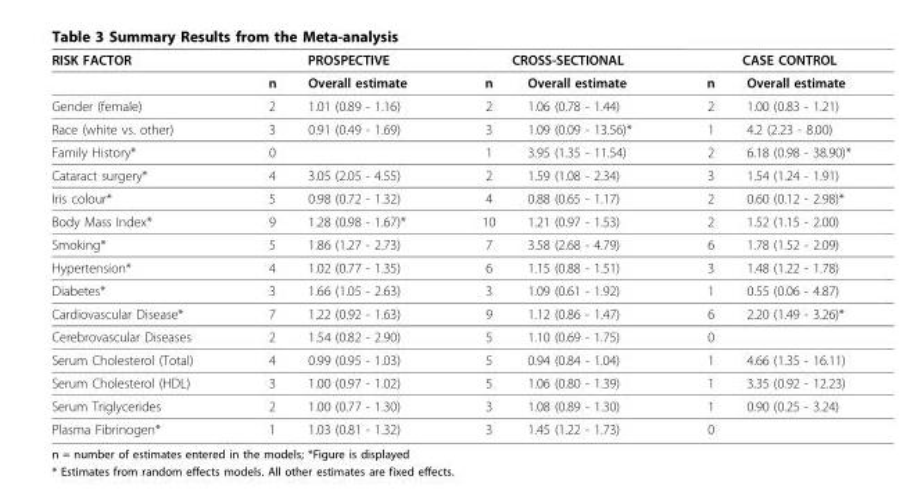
<table><thead><tr><td rowspan="2">RISK FACTOR</td><td colspan="2">PROSPECTIVE</td><td colspan="2">CROSS-SECTIONAL</td><td colspan="2">CASE CONTROL</td></tr><tr><td>n</td><td>Overall estimate</td><td>n</td><td>Overall estimate</td><td>n</td><td>Overall estimate</td></tr></thead><tbody><tr><td>Gender (female)</td><td>2</td><td>1.01 (0.89 - 1.16)</td><td>2</td><td>1.06 (0.78 - 1.44)</td><td>2</td><td>1.00 (0.83 - 1.21)</td></tr><tr><td>Race (white vs. other)</td><td>3</td><td>0.91 (0.49 - 1.69)</td><td>3</td><td>1.09 (0.09 - 13.56)*</td><td>1</td><td>4.2 (2.23 - 8.00)</td></tr><tr><td>Family History*</td><td>0</td><td></td><td>1</td><td>3.95 (1.35 - 11.54)</td><td>2</td><td>6.18 (0.98 - 38.90)*</td></tr><tr><td>Cataract surgery*</td><td>4</td><td>3.05 (2.05 - 4.55)</td><td>2</td><td>1.59 (1.08 - 2.34)</td><td>3</td><td>1.54 (1.24 - 1.91)</td></tr><tr><td>Iris colour*</td><td>5</td><td>0.98 (0.72 - 1.32)</td><td>4</td><td>0.88 (0.65 - 1.17)</td><td>2</td><td>0.60 (0.12 - 2.98)*</td></tr><tr><td>Body Mass Index*</td><td>9</td><td>1.28 (0.98 - 1.67)*</td><td>10</td><td>1.21 (0.97 - 1.53)</td><td>2</td><td>1.52 (1.15 - 2.00)</td></tr><tr><td>Smoking*</td><td>5</td><td>1.86 (1.27 - 2.73)</td><td>7</td><td>3.58 (2.68 - 4.79)</td><td>6</td><td>1.78 (1.52 - 2.09)</td></tr><tr><td>Hypertension*</td><td>4</td><td>1.02 (0.77 - 1.35)</td><td>6</td><td>1.15 (0.88 - 1.51)</td><td>3</td><td>1.48 (1.22 - 1.78)</td></tr><tr><td>Diabetes*</td><td>3</td><td>1.66 (1.05 - 2.63)</td><td>3</td><td>1.09 (0.61 - 1.92)</td><td>1</td><td>0.55 (0.06 - 4.87)</td></tr><tr><td>Cardiovascular Disease*</td><td>7</td><td>1.22 (0.92 - 1.63)</td><td>9</td><td>1.12 (0.86 - 1.47)</td><td>6</td><td>2.20 (1.49 - 3.26)*</td></tr><tr><td>Cerebrovascular Diseases</td><td>2</td><td>1.54 (0.82 - 2.90)</td><td>5</td><td>1.10 (0.69 - 1.75)</td><td>0</td><td></td></tr><tr><td>Serum Cholesterol (Total)</td><td>4</td><td>0.99 (0.95 - 1.03)</td><td>5</td><td>0.94 (0.84 - 1.04)</td><td>1</td><td>4.66 (1.35 - 16.11)</td></tr><tr><td>Serum Cholesterol (HDL)</td><td>3</td><td>1.00 (0.97 - 1.02)</td><td>5</td><td>1.06 (0.80 - 1.39)</td><td>1</td><td>3.35 (0.92 - 12.23)</td></tr><tr><td>Serum Triglycerides</td><td>2</td><td>1.00 (0.77 - 1.30)</td><td>3</td><td>1.08 (0.89 - 1.30)</td><td>1</td><td>0.90 (0.25 - 3.24)</td></tr><tr><td>Plasma Fibrinogen*</td><td>1</td><td>1.03 (0.81 - 1.32)</td><td>3</td><td>1.45 (1.22 - 1.73)</td><td>0</td><td></td></tr></tbody></table>